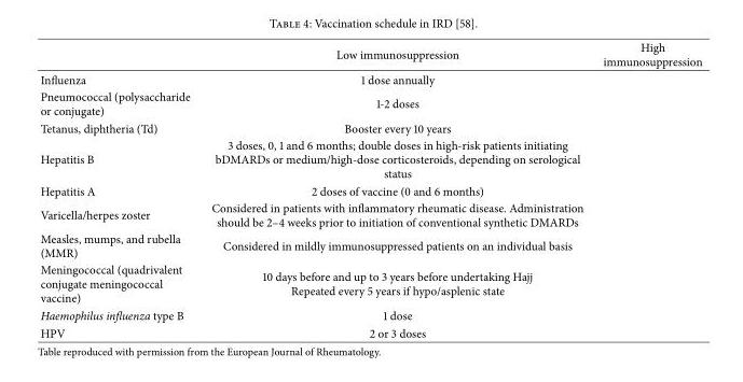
<table><thead><tr><td></td><td>Low immunosuppression</td><td>High immunosuppression</td></tr></thead><tbody><tr><td>Influenza</td><td>1 dose annually</td><td></td></tr><tr><td>Pneumococcal (polysaccharide or conjugate)</td><td>1-2 doses</td><td></td></tr><tr><td>Tetanus, diphtheria (Td)</td><td>Booster every 10 years</td><td></td></tr><tr><td>Hepatitis B</td><td>3 doses, 0, 1 and 6 months; double doses in high-risk patients initiating bDMARDs or medium/high-dose corticosteroids, depending on serological status</td><td></td></tr><tr><td>Hepatitis A</td><td>2 doses of vaccine (0 and 6 months)</td><td></td></tr><tr><td>Varicella/herpes zoster</td><td>Considered in patients with inflammatory rheumatic disease. Administration should be 2–4 weeks prior to initiation of conventional synthetic DMARDs</td><td></td></tr><tr><td>Measles, mumps, and rubella (MMR)</td><td>Considered in mildly immunosuppressed patients on an individual basis</td><td></td></tr><tr><td>Meningococcal (quadrivalent conjugate meningococcal vaccine)</td><td>10 days before and up to 3 years before undertaking Hajj Repeated every 5 years if hypo/asplenic state</td><td></td></tr><tr><td>Haemophilus influenza type B</td><td>1 dose</td><td></td></tr><tr><td>HPV</td><td>2 or 3 doses</td><td></td></tr></tbody></table>